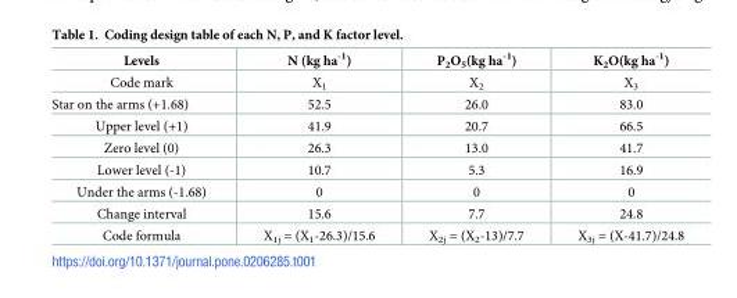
<table><thead><tr><td>Levels</td><td>N (kg ha<sup>-1</sup>)</td><td>P<sub>2</sub>O<sub>5</sub>(kg ha<sup>-1</sup>)</td><td>K<sub>2</sub>O(kg ha<sup>-1</sup>)</td></tr></thead><tbody><tr><td>Code mark</td><td>X<sub>1</sub></td><td>X<sub>2</sub></td><td>X<sub>3</sub></td></tr><tr><td>Star on the arms (+1.68)</td><td>52.5</td><td>26.0</td><td>83.0</td></tr><tr><td>Upper level (+1)</td><td>41.9</td><td>20.7</td><td>66.5</td></tr><tr><td>Zero level (0)</td><td>26.3</td><td>13.0</td><td>41.7</td></tr><tr><td>Lower level (-1)</td><td>10.7</td><td>5.3</td><td>16.9</td></tr><tr><td>Under the arms (-1.68)</td><td>0</td><td>0</td><td>0</td></tr><tr><td>Change interval</td><td>15.6</td><td>7.7</td><td>24.8</td></tr><tr><td>Code formula</td><td>X<sub>1j</sub> = (X<sub>1</sub>-26.3)/15.6</td><td>X<sub>2j</sub> = (X<sub>2</sub>-13)/7.7</td><td>X<sub>3j</sub> = (X-41.7)/24.8</td></tr></tbody></table>